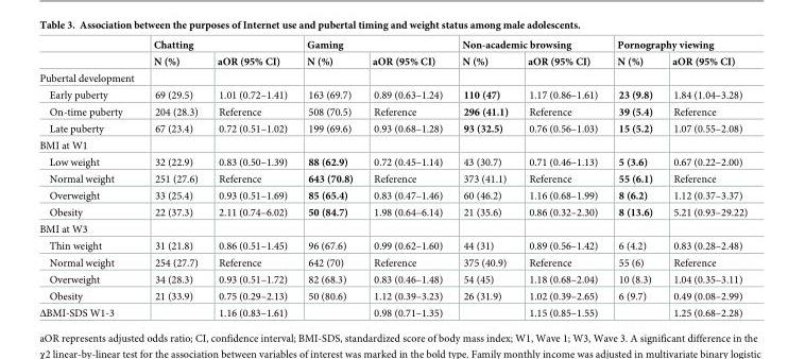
<table><thead><tr><td rowspan="2"></td><td colspan="2">Chatting</td><td colspan="2">Gaming</td><td colspan="2">Non-academic browsing</td><td colspan="2">Pornography viewing</td></tr><tr><td>N (%)</td><td>aOR (95% CI)</td><td>N (%)</td><td>aOR (95% CI)</td><td>N (%)</td><td>aOR (95% CI)</td><td>N (%)</td><td>aOR (95% CI)</td></tr></thead><tbody><tr><td colspan="9">Pubertal development</td></tr><tr><td>Early puberty</td><td>69 (29.5)</td><td>1.01 (0.72–1.41)</td><td>163 (69.7)</td><td>0.89 (0.63–1.24)</td><td>110 (47)</td><td>1.17 (0.86–1.61)</td><td>23 (9.8)</td><td>1.84 (1.04–3.28)</td></tr><tr><td>On-time puberty</td><td>204 (28.3)</td><td>Reference</td><td>508 (70.5)</td><td>Reference</td><td>296 (41.1)</td><td>Reference</td><td>39 (5.4)</td><td>Reference</td></tr><tr><td>Late puberty</td><td>67 (23.4)</td><td>0.72 (0.51–1.02)</td><td>199 (69.6)</td><td>0.93 (0.68–1.28)</td><td>93 (32.5)</td><td>0.76 (0.56–1.03)</td><td>15 (5.2)</td><td>1.07 (0.55–2.08)</td></tr><tr><td colspan="9">BMI at W1</td></tr><tr><td>Low weight</td><td>32 (22.9)</td><td>0.83 (0.50–1.39)</td><td>88 (62.9)</td><td>0.72 (0.45–1.14)</td><td>43 (30.7)</td><td>0.71 (0.46–1.13)</td><td>5 (3.6)</td><td>0.67 (0.22–2.00)</td></tr><tr><td>Normal weight</td><td>251 (27.6)</td><td>Reference</td><td>643 (70.8)</td><td>Reference</td><td>373 (41.1)</td><td>Reference</td><td>55 (6.1)</td><td>Reference</td></tr><tr><td>Overweight</td><td>33 (25.4)</td><td>0.93 (0.51–1.69)</td><td>85 (65.4)</td><td>0.83 (0.47–1.46)</td><td>60 (46.2)</td><td>1.16 (0.68–1.99)</td><td>8 (6.2)</td><td>1.12 (0.37–3.37)</td></tr><tr><td>Obesity</td><td>22 (37.3)</td><td>2.11 (0.74–6.02)</td><td>50 (84.7)</td><td>1.98 (0.64–6.14)</td><td>21 (35.6)</td><td>0.86 (0.32–2.30)</td><td>8 (13.6)</td><td>5.21 (0.93–29.22)</td></tr><tr><td colspan="9">BMI at W3</td></tr><tr><td>Thin weight</td><td>31 (21.8)</td><td>0.86 (0.51–1.45)</td><td>96 (67.6)</td><td>0.99 (0.62–1.60)</td><td>44 (31)</td><td>0.89 (0.56–1.42)</td><td>6 (4.2)</td><td>0.83 (0.28–2.48)</td></tr><tr><td>Normal weight</td><td>254 (27.7)</td><td>Reference</td><td>642 (70)</td><td>Reference</td><td>375 (40.9)</td><td>Reference</td><td>55 (6)</td><td>Reference</td></tr><tr><td>Overweight</td><td>34 (28.3)</td><td>0.93 (0.51–1.72)</td><td>82 (68.3)</td><td>0.83 (0.46–1.48)</td><td>54 (45)</td><td>1.18 (0.68–2.04)</td><td>10 (8.3)</td><td>1.04 (0.35–3.11)</td></tr><tr><td>Obesity</td><td>21 (33.9)</td><td>0.75 (0.29–2.13)</td><td>50 (80.6)</td><td>1.12 (0.39–3.23)</td><td>26 (31.9)</td><td>1.02 (0.39–2.65)</td><td>6 (9.7)</td><td>0.49 (0.08–2.99)</td></tr><tr><td>ΔBMI-SDS W1-3</td><td></td><td>1.16 (0.83–1.61)</td><td></td><td>0.98 (0.71–1.35)</td><td></td><td>1.15 (0.85–1.55)</td><td></td><td>1.25 (0.68–2.28)</td></tr></tbody></table>